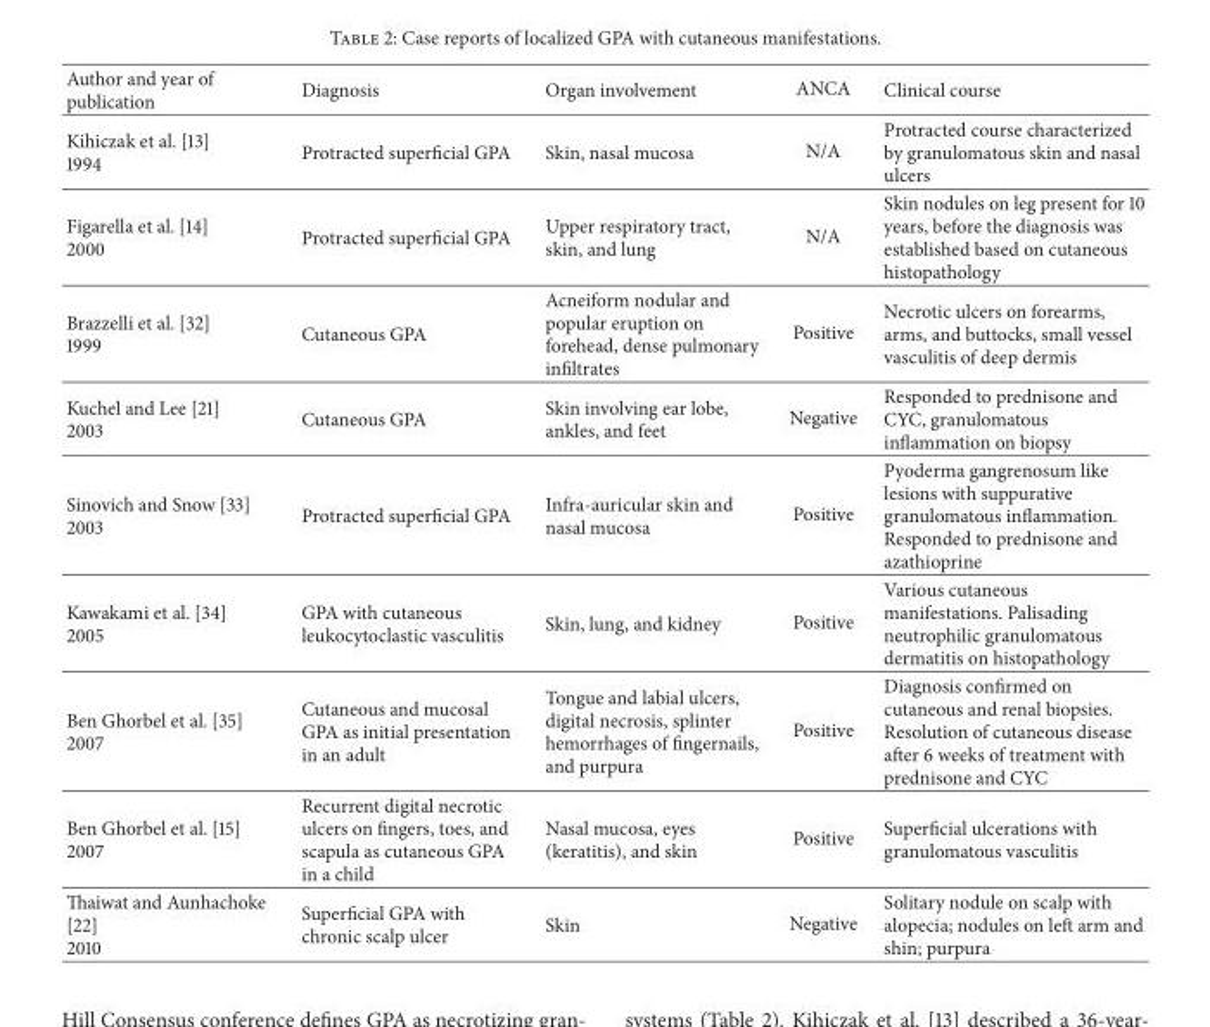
<table><thead><tr><td>Author and year of publication</td><td>Diagnosis</td><td>Organ involvement</td><td>ANCA</td><td>Clinical course</td></tr></thead><tbody><tr><td>Kihiczak et al. [13] 1994</td><td>Protracted superficial GPA</td><td>Skin, nasal mucosa</td><td>N/A</td><td>Protracted course characterized by granulomatous skin and nasal ulcers</td></tr><tr><td>Figarella et al. [14] 2000</td><td>Protracted superficial GPA</td><td>Upper respiratory tract, skin, and lung</td><td>N/A</td><td>Skin nodules on leg present for 10 years, before the diagnosis was established based on cutaneous histopathology</td></tr><tr><td>Brazzelli et al. [32] 1999</td><td>Cutaneous GPA</td><td>Acneiform nodular and popular eruption on forehead, dense pulmonary infiltrates</td><td>Positive</td><td>Necrotic ulcers on forearms, arms, and buttocks, small vessel vasculitis of deep dermis</td></tr><tr><td>Kuchel and Lee [21] 2003</td><td>Cutaneous GPA</td><td>Skin involving ear lobe, ankles, and feet</td><td>Negative</td><td>Responded to prednisone and CYC, granulomatous inflammation on biopsy</td></tr><tr><td>Sinovich and Snow [33] 2003</td><td>Protracted superficial GPA</td><td>Infra-auricular skin and nasal mucosa</td><td>Positive</td><td>Pyoderma gangrenosum like lesions with suppurative granulomatous inflammation. Responded to prednisone and azathioprine</td></tr><tr><td>Kawakami et al. [34] 2005</td><td>GPA with cutaneous leukocytoclastic vasculitis</td><td>Skin, lung, and kidney</td><td>Positive</td><td>Various cutaneous manifestations. Palisading neutrophilic granulomatous dermatitis on histopathology</td></tr><tr><td>Ben Ghorbel et al. [35] 2007</td><td>Cutaneous and mucosal GPA as initial presentation in an adult</td><td>Tongue and labial ulcers, digital necrosis, splinter hemorrhages of fingernails, and purpura</td><td>Positive</td><td>Diagnosis confirmed on cutaneous and renal biopsies. Resolution of cutaneous disease after 6 weeks of treatment with prednisone and CYC</td></tr><tr><td>Ben Ghorbel et al. [15] 2007</td><td>Recurrent digital necrotic ulcers on fingers, toes, and scapula as cutaneous GPA in a child</td><td>Nasal mucosa, eyes (keratitis), and skin</td><td>Positive</td><td>Superficial ulcerations with granulomatous vasculitis</td></tr><tr><td>Thaiwat and Aunhachoke [22] 2010</td><td>Superficial GPA with chronic scalp ulcer</td><td>Skin</td><td>Negative</td><td>Solitary nodule on scalp with alopecia; nodules on left arm and shin; purpura</td></tr></tbody></table>